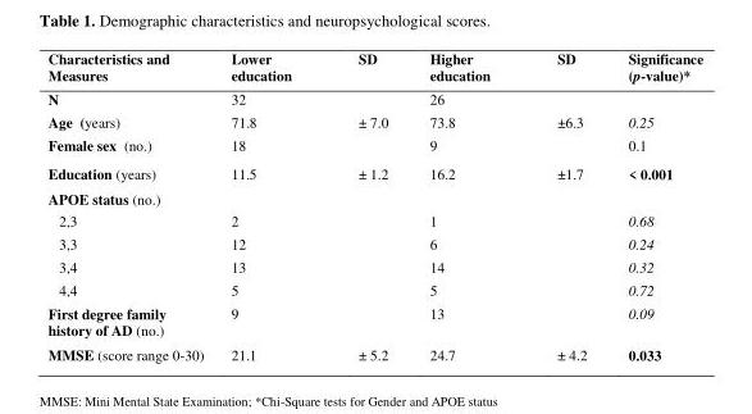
<table><thead><tr><td>Characteristics and Measures</td><td>Lower education</td><td>SD</td><td>Higher education</td><td>SD</td><td>Significance (p-value)*</td></tr></thead><tbody><tr><td>N</td><td>32</td><td></td><td>26</td><td></td><td></td></tr><tr><td>Age (years)</td><td>71.8</td><td>± 7.0</td><td>73.8</td><td>±6.3</td><td>0.25</td></tr><tr><td>Female sex (no.)</td><td>18</td><td></td><td>9</td><td></td><td>0.1</td></tr><tr><td>Education (years)</td><td>11.5</td><td>± 1.2</td><td>16.2</td><td>±1.7</td><td>&lt; 0.001</td></tr><tr><td colspan="6">APOE status (no.)</td></tr><tr><td>2,3</td><td>2</td><td></td><td>1</td><td></td><td>0.68</td></tr><tr><td>3,3</td><td>12</td><td></td><td>6</td><td></td><td>0.24</td></tr><tr><td>3,4</td><td>13</td><td></td><td>14</td><td></td><td>0.32</td></tr><tr><td>4,4</td><td>5</td><td></td><td>5</td><td></td><td>0.72</td></tr><tr><td>First degree family history of AD (no.)</td><td>9</td><td></td><td>13</td><td></td><td>0.09</td></tr><tr><td>MMSE (score range 0-30)</td><td>21.1</td><td>± 5.2</td><td>24.7</td><td>± 4.2</td><td>0.033</td></tr></tbody></table>